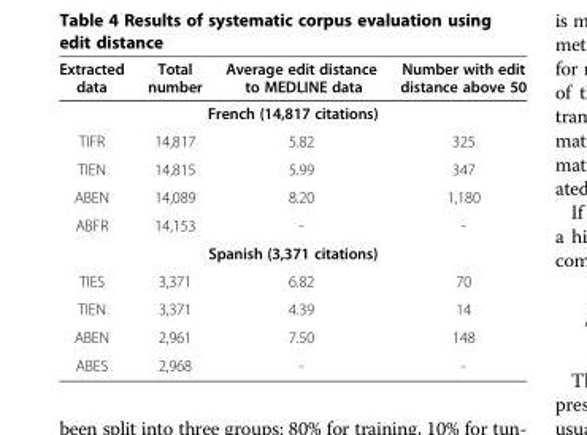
<table><thead><tr><td>Extracted data</td><td>Total number</td><td>Average edit distance to MEDLINE data</td><td>Number with edit distance above 50</td></tr></thead><tbody><tr><td colspan="4">French (14,817 citations)</td></tr><tr><td>TIFR</td><td>14,817</td><td>5.82</td><td>325</td></tr><tr><td>TIEN</td><td>14,815</td><td>5.99</td><td>347</td></tr><tr><td>ABEN</td><td>14,089</td><td>8.20</td><td>1,180</td></tr><tr><td>ABFR</td><td>14,153</td><td>-</td><td>-</td></tr><tr><td colspan="4">Spanish (3,371 citations)</td></tr><tr><td>TIES</td><td>3,371</td><td>6.82</td><td>70</td></tr><tr><td>TIEN</td><td>3,371</td><td>4.39</td><td>14</td></tr><tr><td>ABEN</td><td>2,961</td><td>7.50</td><td>148</td></tr><tr><td>ABES</td><td>2,968</td><td>-</td><td>-</td></tr></tbody></table>